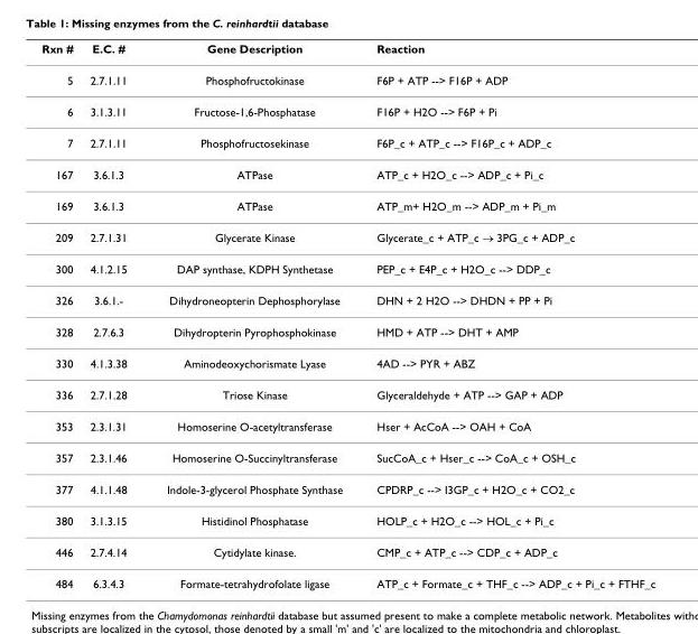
<table><thead><tr><td>Rxn #</td><td>E.C. #</td><td>Gene Description</td><td>Reaction</td></tr></thead><tbody><tr><td>5</td><td>2.7.1.11</td><td>Phosphofructokinase</td><td>F6P + ATP --&gt; F16P + ADP</td></tr><tr><td>6</td><td>3.1.3.11</td><td>Fructose-1,6-Phosphatase</td><td>F16P + H2O --&gt; F6P + Pi</td></tr><tr><td>7</td><td>2.7.1.11</td><td>Phosphofructosekinase</td><td>F6P_c + ATP_c --&gt; F16P_c + ADP_c</td></tr><tr><td>167</td><td>3.6.1.3</td><td>ATPase</td><td>ATP_c + H2O_c --&gt; ADP_c + Pi_c</td></tr><tr><td>169</td><td>3.6.1.3</td><td>ATPase</td><td>ATP_m+ H2O_m --&gt; ADP_m + Pi_m</td></tr><tr><td>209</td><td>2.7.1.31</td><td>Glycerate Kinase</td><td>Glycerate_c + ATP_c → 3PG_c + ADP_c</td></tr><tr><td>300</td><td>4.1.2.15</td><td>DAP synthase, KDPH Synthetase</td><td>PEP_c + E4P_c + H2O_c --&gt; DDP_c</td></tr><tr><td>326</td><td>3.6.1.-</td><td>Dihydroneopterin Dephosphorylase</td><td>DHN + 2 H2O --&gt; DHDN + PP + Pi</td></tr><tr><td>328</td><td>2.7.6.3</td><td>Dihydropterin Pyrophosphokinase</td><td>HMD + ATP --&gt; DHT + AMP</td></tr><tr><td>330</td><td>4.1.3.38</td><td>Aminodeoxychorismate Lyase</td><td>4AD --&gt; PYR + ABZ</td></tr><tr><td>336</td><td>2.7.1.28</td><td>Triose Kinase</td><td>Glyceraldehyde + ATP --&gt; GAP + ADP</td></tr><tr><td>353</td><td>2.3.1.31</td><td>Homoserine O-acetyltransferase</td><td>Hser + AcCoA --&gt; OAH + CoA</td></tr><tr><td>357</td><td>2.3.1.46</td><td>Homoserine O-Succinyltransferase</td><td>SucCoA_c + Hser_c --&gt; CoA_c + OSH_c</td></tr><tr><td>377</td><td>4.1.1.48</td><td>Indole-3-glycerol Phosphate Synthase</td><td>CPDRP_c --&gt; I3GP_c + H2O_c + CO2_c</td></tr><tr><td>380</td><td>3.1.3.15</td><td>Histidinol Phosphatase</td><td>HOLP_c + H2O_c --&gt; HOL_c + Pi_c</td></tr><tr><td>446</td><td>2.7.4.14</td><td>Cytidylate kinase.</td><td>CMP_c + ATP_c --&gt; CDP_c + ADP_c</td></tr><tr><td>484</td><td>6.3.4.3</td><td>Formate-tetrahydrofolate ligase</td><td>ATP_c + Formate_c + THF_c --&gt; ADP_c + Pi_c + FTHF_c</td></tr></tbody></table>